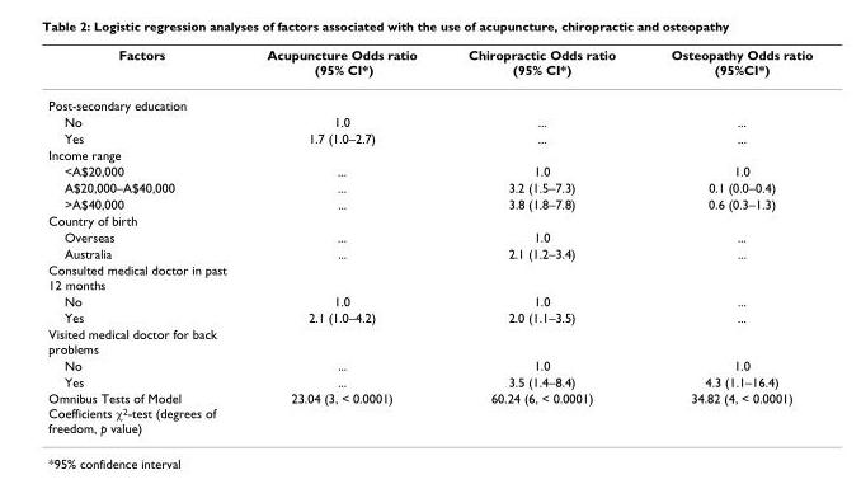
<table><thead><tr><td>Factors</td><td>Acupuncture Odds ratio (95% CI*)</td><td>Chiropractic Odds ratio (95% CI*)</td><td>Osteopathy Odds ratio (95%CI*)</td></tr></thead><tbody><tr><td colspan="4">Post-secondary education</td></tr><tr><td>No</td><td>1.0</td><td>...</td><td>...</td></tr><tr><td>Yes</td><td>1.7 (1.0–2.7)</td><td>...</td><td>...</td></tr><tr><td colspan="4">Income range</td></tr><tr><td>&lt;A$20,000</td><td>...</td><td>1.0</td><td>1.0</td></tr><tr><td>A$20,000–A$40,000</td><td>...</td><td>3.2 (1.5–7.3)</td><td>0.1 (0.0–0.4)</td></tr><tr><td>&gt;A$40,000</td><td>...</td><td>3.8 (1.8–7.8)</td><td>0.6 (0.3–1.3)</td></tr><tr><td colspan="4">Country of birth</td></tr><tr><td>Overseas</td><td>...</td><td>1.0</td><td>...</td></tr><tr><td>Australia</td><td>...</td><td>2.1 (1.2–3.4)</td><td>...</td></tr><tr><td colspan="4">Consulted medical doctor in past 12 months</td></tr><tr><td>No</td><td>1.0</td><td>1.0</td><td>...</td></tr><tr><td>Yes</td><td>2.1 (1.0–4.2)</td><td>2.0 (1.1–3.5)</td><td>...</td></tr><tr><td colspan="4">Visited medical doctor for back problems</td></tr><tr><td>No</td><td>...</td><td>1.0</td><td>1.0</td></tr><tr><td>Yes</td><td>...</td><td>3.5 (1.4–8.4)</td><td>4.3 (1.1–16.4)</td></tr><tr><td>Omnibus Tests of Model Coefficients χ<sup>2</sup>-test (degrees of freedom, p value)</td><td>23.04 (3, &lt; 0.0001)</td><td>60.24 (6, &lt; 0.0001)</td><td>34.82 (4, &lt; 0.0001)</td></tr></tbody></table>